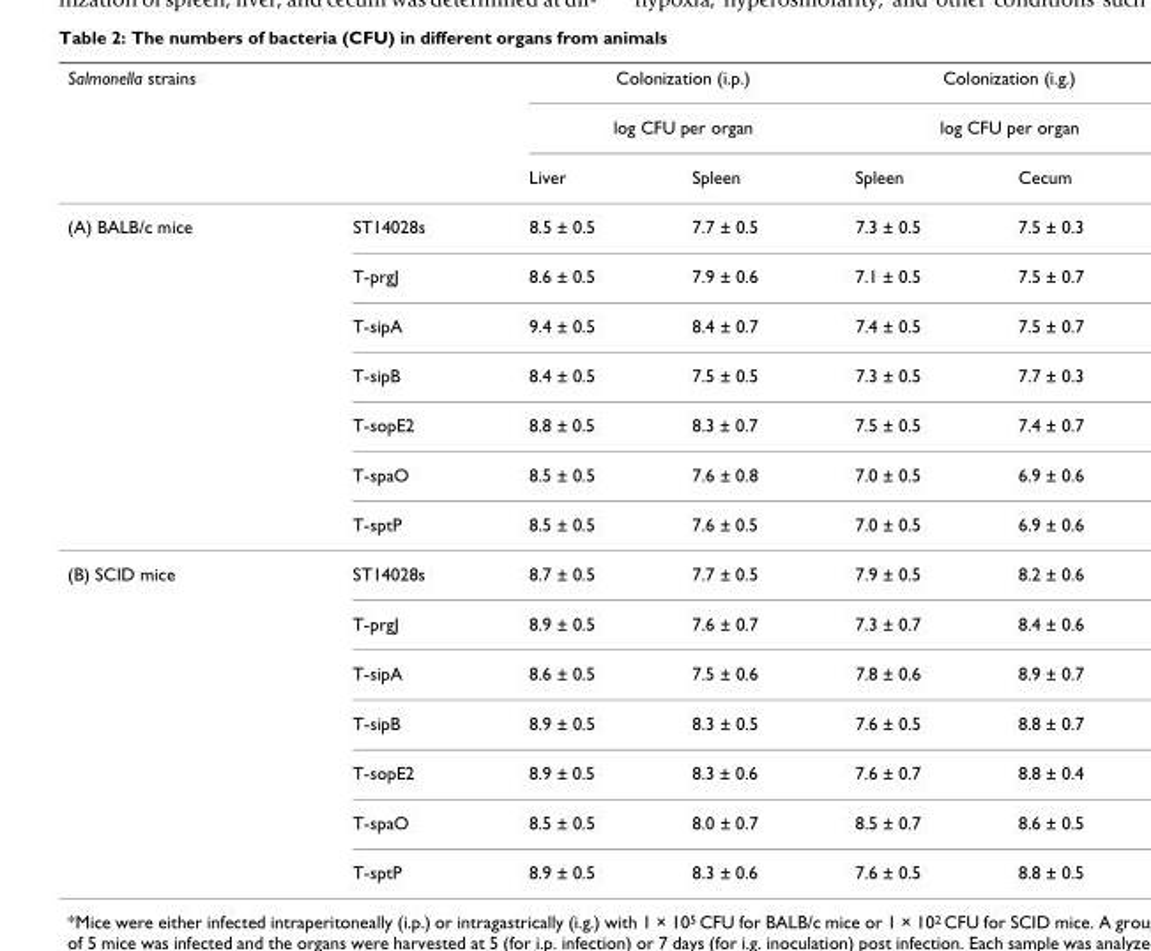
<table><thead><tr><td rowspan="3">Salmonella strains</td><td rowspan="3"></td><td rowspan="2" colspan="2">Colonization (i.p.) log CFU per organ</td><td rowspan="2" colspan="2">Colonization (i.g.) log CFU per organ</td></tr><tr></tr><tr><td>Liver</td><td>Spleen</td><td>Spleen</td><td>Cecum</td></tr></thead><tbody><tr><td rowspan="7">(A) BALB/c mice</td><td>ST14028s</td><td>8.5 ± 0.5</td><td>7.7 ± 0.5</td><td>7.3 ± 0.5</td><td>7.5 ± 0.3</td></tr><tr><td>T-prgJ</td><td>8.6 ± 0.5</td><td>7.9 ± 0.6</td><td>7.1 ± 0.5</td><td>7.5 ± 0.7</td></tr><tr><td>T-sipA</td><td>9.4 ± 0.5</td><td>8.4 ± 0.7</td><td>7.4 ± 0.5</td><td>7.5 ± 0.7</td></tr><tr><td>T-sipB</td><td>8.4 ± 0.5</td><td>7.5 ± 0.5</td><td>7.3 ± 0.5</td><td>7.7 ± 0.3</td></tr><tr><td>T-sopE2</td><td>8.8 ± 0.5</td><td>8.3 ± 0.7</td><td>7.5 ± 0.5</td><td>7.4 ± 0.7</td></tr><tr><td>T-spaO</td><td>8.5 ± 0.5</td><td>7.6 ± 0.8</td><td>7.0 ± 0.5</td><td>6.9 ± 0.6</td></tr><tr><td>T-sptP</td><td>8.5 ± 0.5</td><td>7.6 ± 0.5</td><td>7.0 ± 0.5</td><td>6.9 ± 0.6</td></tr><tr><td rowspan="7">(B) SCID mice</td><td>ST14028s</td><td>8.7 ± 0.5</td><td>7.7 ± 0.5</td><td>7.9 ± 0.5</td><td>8.2 ± 0.6</td></tr><tr><td>T-prgJ</td><td>8.9 ± 0.5</td><td>7.6 ± 0.7</td><td>7.3 ± 0.7</td><td>8.4 ± 0.6</td></tr><tr><td>T-sipA</td><td>8.6 ± 0.5</td><td>7.5 ± 0.6</td><td>7.8 ± 0.6</td><td>8.9 ± 0.7</td></tr><tr><td>T-sipB</td><td>8.9 ± 0.5</td><td>8.3 ± 0.5</td><td>7.6 ± 0.5</td><td>8.8 ± 0.7</td></tr><tr><td>T-sopE2</td><td>8.9 ± 0.5</td><td>8.3 ± 0.6</td><td>7.6 ± 0.7</td><td>8.8 ± 0.4</td></tr><tr><td>T-spaO</td><td>8.5 ± 0.5</td><td>8.0 ± 0.7</td><td>8.5 ± 0.7</td><td>8.6 ± 0.5</td></tr><tr><td>T-sptP</td><td>8.9 ± 0.5</td><td>8.3 ± 0.6</td><td>7.6 ± 0.5</td><td>8.8 ± 0.5</td></tr></tbody></table>